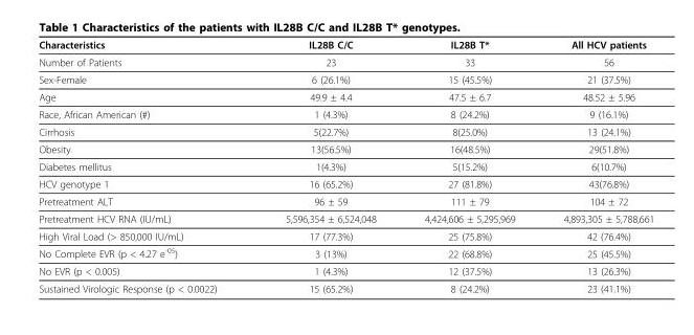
<table><thead><tr><td>Characteristics</td><td>IL28B C/C</td><td>IL28B T*</td><td>All HCV patients</td></tr></thead><tbody><tr><td>Number of Patients</td><td>23</td><td>33</td><td>56</td></tr><tr><td>Sex-Female</td><td>6 (26.1%)</td><td>15 (45.5%)</td><td>21 (37.5%)</td></tr><tr><td>Age</td><td>49.9 ± 4.4</td><td>47.5 ± 6.7</td><td>48.52 ± 5.96</td></tr><tr><td>Race, African American (#)</td><td>1 (4.3%)</td><td>8 (24.2%)</td><td>9 (16.1%)</td></tr><tr><td>Cirrhosis</td><td>5(22.7%)</td><td>8(25.0%)</td><td>13 (24.1%)</td></tr><tr><td>Obesity</td><td>13(56.5%)</td><td>16(48.5%)</td><td>29(51.8%)</td></tr><tr><td>Diabetes mellitus</td><td>1(4.3%)</td><td>5(15.2%)</td><td>6(10.7%)</td></tr><tr><td>HCV genotype 1</td><td>16 (65.2%)</td><td>27 (81.8%)</td><td>43(76.8%)</td></tr><tr><td>Pretreatment ALT</td><td>96 ± 59</td><td>111 ± 79</td><td>104 ± 72</td></tr><tr><td>Pretreatment HCV RNA (IU/mL)</td><td>5,596,354 ± 6,524,048</td><td>4,424,606 ± 5,295,969</td><td>4,893,305 ± 5,788,661</td></tr><tr><td>High Viral Load (&gt; 850,000 IU/mL)</td><td>17 (77.3%)</td><td>25 (75.8%)</td><td>42 (76.4%)</td></tr><tr><td>No Complete EVR (p &lt; 4.27 e<sup>-05</sup>)</td><td>3 (13%)</td><td>22 (68.8%)</td><td>25 (45.5%)</td></tr><tr><td>No EVR (p &lt; 0.005)</td><td>1 (4.3%)</td><td>12 (37.5%)</td><td>13 (26.3%)</td></tr><tr><td>Sustained Virologic Response (p &lt; 0.0022)</td><td>15 (65.2%)</td><td>8 (24.2%)</td><td>23 (41.1%)</td></tr></tbody></table>